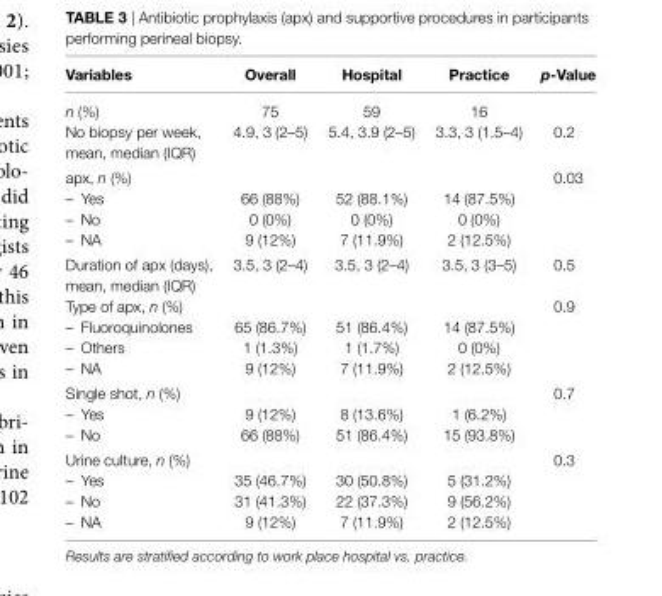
<table><thead><tr><td>Variables</td><td>Overall</td><td>hospital</td><td>Practice</td><td>p-Value</td></tr></thead><tbody><tr><td>n (%)</td><td>75</td><td>59</td><td>16</td><td></td></tr><tr><td>No biopsy per week, mean, median (IQR)</td><td>4.9, 3 (2–5)</td><td>5.4, 3.9 (2–5)</td><td>3.3, 3 (1.5–4)</td><td>0.2</td></tr><tr><td>apx, n (%)</td><td></td><td></td><td></td><td>0.03</td></tr><tr><td>– Yes</td><td>66 (88%)</td><td>52 (88.1%)</td><td>14 (87.5%)</td><td></td></tr><tr><td>– No</td><td>0 (0%)</td><td>0 (0%)</td><td>0 (0%)</td><td></td></tr><tr><td>– NA</td><td>9 (12%)</td><td>7 (11.9%)</td><td>2 (12.5%)</td><td></td></tr><tr><td>Duration of apx (days), mean, median (IQR)</td><td>3.5, 3 (2–4)</td><td>3.5, 3 (2–4)</td><td>3.5, 3 (3–5)</td><td>0.5</td></tr><tr><td>Type of apx, n (%)</td><td></td><td></td><td></td><td>0.9</td></tr><tr><td>– Fluoroquinolones</td><td>65 (86.7%)</td><td>51 (86.4%)</td><td>14 (87.5%)</td><td></td></tr><tr><td>– Others</td><td>1 (1.3%)</td><td>1 (1.7%)</td><td>0 (0%)</td><td></td></tr><tr><td>– NA</td><td>9 (12%)</td><td>7 (11.9%)</td><td>2 (12.5%)</td><td></td></tr><tr><td>Single shot, n (%)</td><td></td><td></td><td></td><td>0.7</td></tr><tr><td>– Yes</td><td>9 (12%)</td><td>8 (13.6%)</td><td>1 (6.2%)</td><td></td></tr><tr><td>– No</td><td>66 (88%)</td><td>51 (86.4%)</td><td>15 (93.8%)</td><td></td></tr><tr><td>Urine culture, n (%)</td><td></td><td></td><td></td><td>0.3</td></tr><tr><td>– Yes</td><td>35 (46.7%)</td><td>30 (50.8%)</td><td>5 (31.2%)</td><td></td></tr><tr><td>– No</td><td>31 (41.3%)</td><td>22 (37.3%)</td><td>9 (56.2%)</td><td></td></tr><tr><td>– NA</td><td>9 (12%)</td><td>7 (11.9%)</td><td>2 (12.5%)</td><td></td></tr></tbody></table>